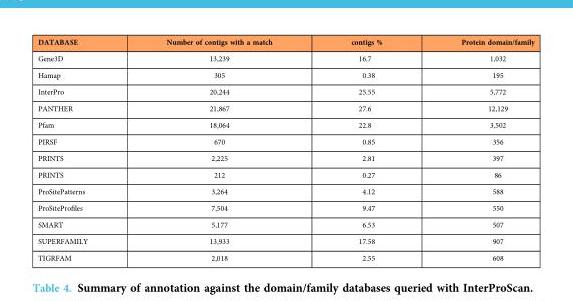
<table><thead><tr><td>DATABASE</td><td>Number of contigs with a match</td><td>contigs %</td><td>Protein domain/family</td></tr></thead><tbody><tr><td>Gene3D</td><td>13,239</td><td>16.7</td><td>1,032</td></tr><tr><td>Hamap</td><td>305</td><td>0.38</td><td>195</td></tr><tr><td>InterPro</td><td>20,244</td><td>25.55</td><td>5,772</td></tr><tr><td>PANTHER</td><td>21,867</td><td>27.6</td><td>12,129</td></tr><tr><td>Pfam</td><td>18,064</td><td>22.8</td><td>3,502</td></tr><tr><td>PIRSF</td><td>670</td><td>0.85</td><td>356</td></tr><tr><td>PRINTS</td><td>2,225</td><td>2.81</td><td>397</td></tr><tr><td>PRINTS</td><td>212</td><td>0.27</td><td>86</td></tr><tr><td>ProSitePatterns</td><td>3,264</td><td>4.12</td><td>588</td></tr><tr><td>ProSiteProfiles</td><td>7,504</td><td>9.47</td><td>550</td></tr><tr><td>SMART</td><td>5,177</td><td>6.53</td><td>507</td></tr><tr><td>SUPERFAMILY</td><td>13,933</td><td>17.58</td><td>907</td></tr><tr><td>TIGRFAM</td><td>2,018</td><td>2.55</td><td>608</td></tr></tbody></table>